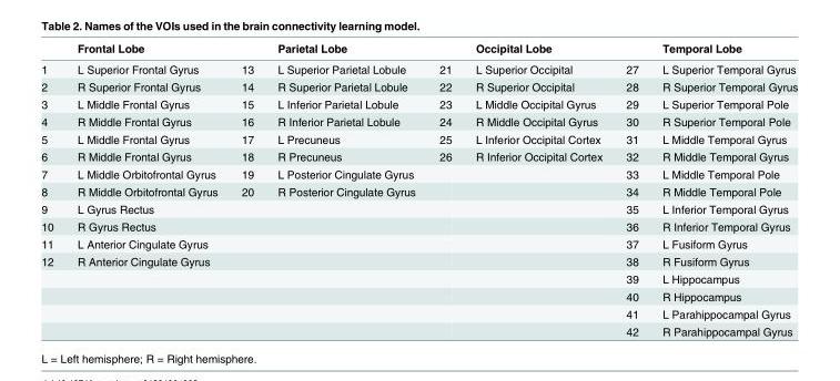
<table><thead><tr><td></td><td>Frontal Lobe</td><td></td><td>Parietal Lobe</td><td></td><td>Occipital Lobe</td><td></td><td>Temporal Lobe</td></tr></thead><tbody><tr><td>1</td><td>L Superior Frontal Gyrus</td><td>13</td><td>L Superior Parietal Lobule</td><td>21</td><td>L Superior Occipital</td><td>27</td><td>L Superior Temporal Gyrus</td></tr><tr><td>2</td><td>R Superior Frontal Gyrus</td><td>14</td><td>R Superior Parietal Lobule</td><td>22</td><td>R Superior Occipital</td><td>28</td><td>R Superior Temporal Gyrus</td></tr><tr><td>3</td><td>L Middle Frontal Gyrus</td><td>15</td><td>L Inferior Parietal Lobule</td><td>23</td><td>L Middle Occipital Gyrus</td><td>29</td><td>L Superior Temporal Pole</td></tr><tr><td>4</td><td>R Middle Frontal Gyrus</td><td>16</td><td>R Inferior Parietal Lobule</td><td>24</td><td>R Middle Occipital Gyrus</td><td>30</td><td>R Superior Temporal Pole</td></tr><tr><td>5</td><td>L Middle Frontal Gyrus</td><td>17</td><td>L Precuneus</td><td>25</td><td>L Inferior Occipital Cortex</td><td>31</td><td>L Middle Temporal Gyrus</td></tr><tr><td>6</td><td>R Middle Frontal Gyrus</td><td>18</td><td>R Precuneus</td><td>26</td><td>R Inferior Occipital Cortex</td><td>32</td><td>R Middle Temporal Gyrus</td></tr><tr><td>7</td><td>L Middle Orbitofrontal Gyrus</td><td>19</td><td>L Posterior Cingulate Gyrus</td><td></td><td></td><td>33</td><td>L Middle Temporal Pole</td></tr><tr><td>8</td><td>R Middle Orbitofrontal Gyrus</td><td>20</td><td>R Posterior Cingulate Gyrus</td><td></td><td></td><td>34</td><td>R Middle Temporal Pole</td></tr><tr><td>9</td><td>L Gyrus Rectus</td><td></td><td></td><td></td><td></td><td>35</td><td>L Inferior Temporal Gyrus</td></tr><tr><td>10</td><td>R Gyrus Rectus</td><td></td><td></td><td></td><td></td><td>36</td><td>R Inferior Temporal Gyrus</td></tr><tr><td>11</td><td>L Anterior Cingulate Gyrus</td><td></td><td></td><td></td><td></td><td>37</td><td>L Fusiform Gyrus</td></tr><tr><td rowspan="5">12</td><td>R Anterior Cingulate Gyrus</td><td></td><td></td><td></td><td></td><td>38</td><td>R Fusiform Gyrus</td></tr><tr><td></td><td></td><td></td><td></td><td></td><td>39</td><td>L Hippocampus</td></tr><tr><td></td><td></td><td></td><td></td><td></td><td>40</td><td>R Hippocampus</td></tr><tr><td></td><td></td><td></td><td></td><td></td><td>41</td><td>L Parahippocampal Gyrus</td></tr><tr><td></td><td></td><td></td><td></td><td></td><td>42</td><td>R Parahippocampal Gyrus</td></tr></tbody></table>